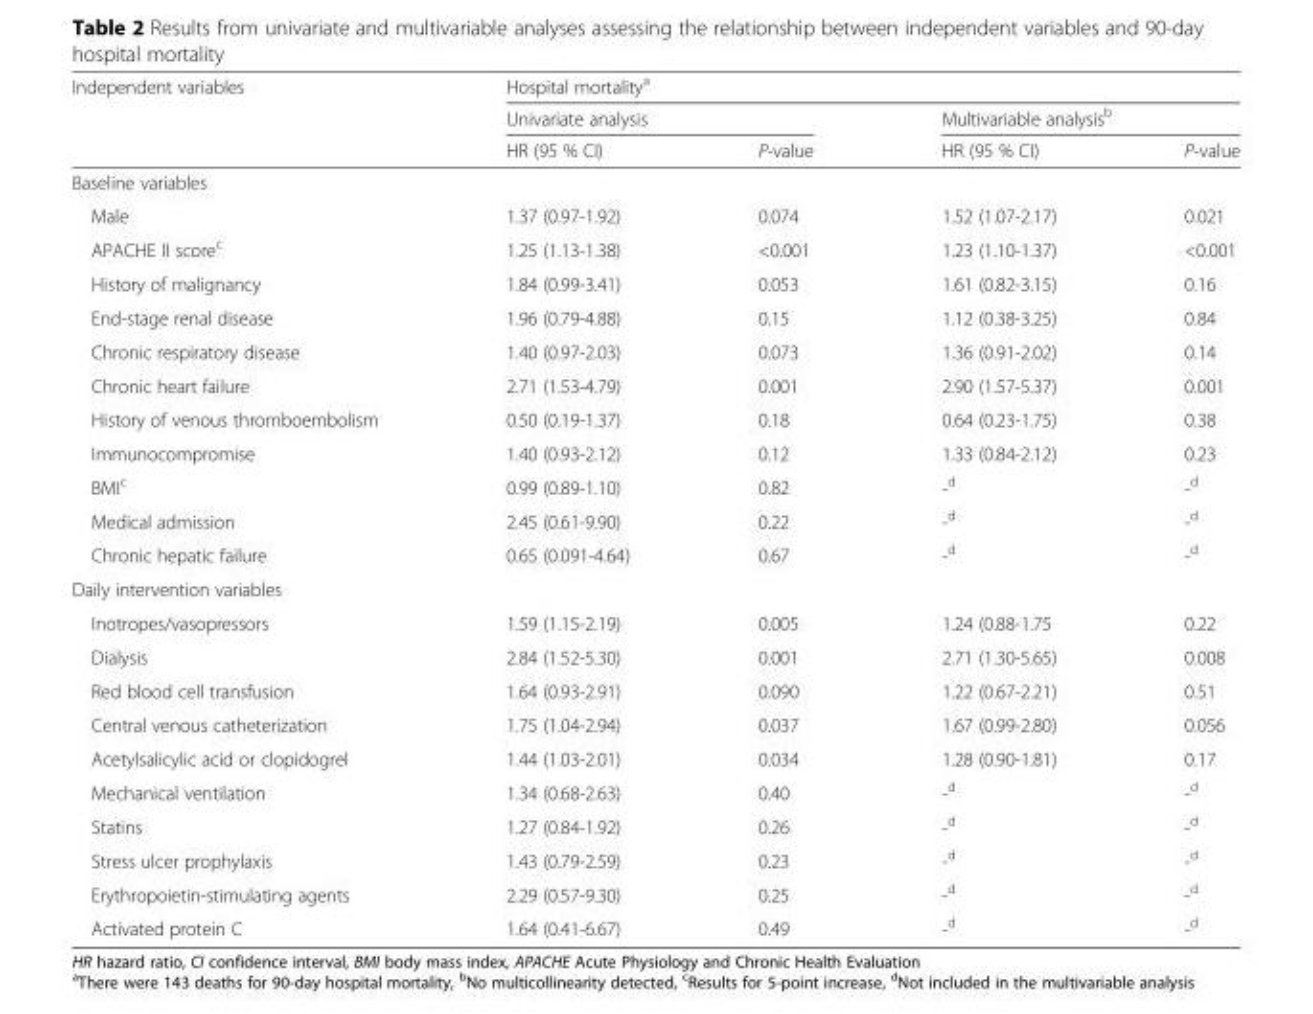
<table><thead><tr><td rowspan="3">Independent variables</td><td colspan="4">Hospital mortality<sup>a</sup></td></tr><tr><td colspan="2">Univariate analysis</td><td colspan="2">Multivariable analysis<sup>b</sup></td></tr><tr><td>HR (95 % CI)</td><td>P-value</td><td>HR (95 % CI)</td><td>P-value</td></tr></thead><tbody><tr><td colspan="5">Baseline variables</td></tr><tr><td>Male</td><td>1.37 (0.97-1.92)</td><td>0.074</td><td>1.52 (1.07-2.17)</td><td>0.021</td></tr><tr><td>APACHE II score<sup>c</sup></td><td>1.25 (1.13-1.38)</td><td>&lt;0.001</td><td>1.23 (1.10-1.37)</td><td>&lt;0.001</td></tr><tr><td>History of malignancy</td><td>1.84 (0.99-3.41)</td><td>0.053</td><td>1.61 (0.82-3.15)</td><td>0.16</td></tr><tr><td>End-stage renal disease</td><td>1.96 (0.79-4.88)</td><td>0.15</td><td>1.12 (0.38-3.25)</td><td>0.84</td></tr><tr><td>Chronic respiratory disease</td><td>1.40 (0.97-2.03)</td><td>0.073</td><td>1.36 (0.91-2.02)</td><td>0.14</td></tr><tr><td>Chronic heart failure</td><td>2.71 (1.53-4.79)</td><td>0.001</td><td>2.90 (1.57-5.37)</td><td>0.001</td></tr><tr><td>History of venous thromboembolism</td><td>0.50 (0.19-1.37)</td><td>0.18</td><td>0.64 (0.23-1.75)</td><td>0.38</td></tr><tr><td>Immunocompromise</td><td>1.40 (0.93-2.12)</td><td>0.12</td><td>1.33 (0.84-2.12)</td><td>0.23</td></tr><tr><td>BMI<sup>c</sup></td><td>0.99 (0.89-1.10)</td><td>0.82</td><td>-<sup>d</sup></td><td>-<sup>d</sup></td></tr><tr><td>Medical admission</td><td>2.45 (0.61-9.90)</td><td>0.22</td><td>-<sup>d</sup></td><td>-<sup>d</sup></td></tr><tr><td>Chronic hepatic failure</td><td>0.65 (0.091-4.64)</td><td>0.67</td><td>-<sup>d</sup></td><td>-<sup>d</sup></td></tr><tr><td colspan="5">Daily intervention variables</td></tr><tr><td>Inotropes/vasopressors</td><td>1.59 (1.15-2.19)</td><td>0.005</td><td>1.24 (0.88-1.75</td><td>0.22</td></tr><tr><td>Dialysis</td><td>2.84 (1.52-5.30)</td><td>0.001</td><td>2.71 (1.30-5.65)</td><td>0.008</td></tr><tr><td>Red blood cell transfusion</td><td>1.64 (0.93-2.91)</td><td>0.090</td><td>1.22 (0.67-2.21)</td><td>0.51</td></tr><tr><td>Central venous catheterization</td><td>1.75 (1.04-2.94)</td><td>0.037</td><td>1.67 (0.99-2.80)</td><td>0.056</td></tr><tr><td>Acetylsalicylic acid or clopidogrel</td><td>1.44 (1.03-2.01)</td><td>0.034</td><td>1.28 (0.90-1.81)</td><td>0.17</td></tr><tr><td>Mechanical ventilation</td><td>1.34 (0.68-2.63)</td><td>0.40</td><td>-<sup>d</sup></td><td>-<sup>d</sup></td></tr><tr><td>Statins</td><td>1.27 (0.84-1.92)</td><td>0.26</td><td>-<sup>d</sup></td><td>-<sup>d</sup></td></tr><tr><td>Stress ulcer prophylaxis</td><td>1.43 (0.79-2.59)</td><td>0.23</td><td>-<sup>d</sup></td><td>-<sup>d</sup></td></tr><tr><td>Erythropoietin-stimulating agents</td><td>2.29 (0.57-9.30)</td><td>0.25</td><td>-<sup>d</sup></td><td>-<sup>d</sup></td></tr><tr><td>Activated protein C</td><td>1.64 (0.41-6.67)</td><td>0.49</td><td>-<sup>d</sup></td><td>-<sup>d</sup></td></tr></tbody></table>